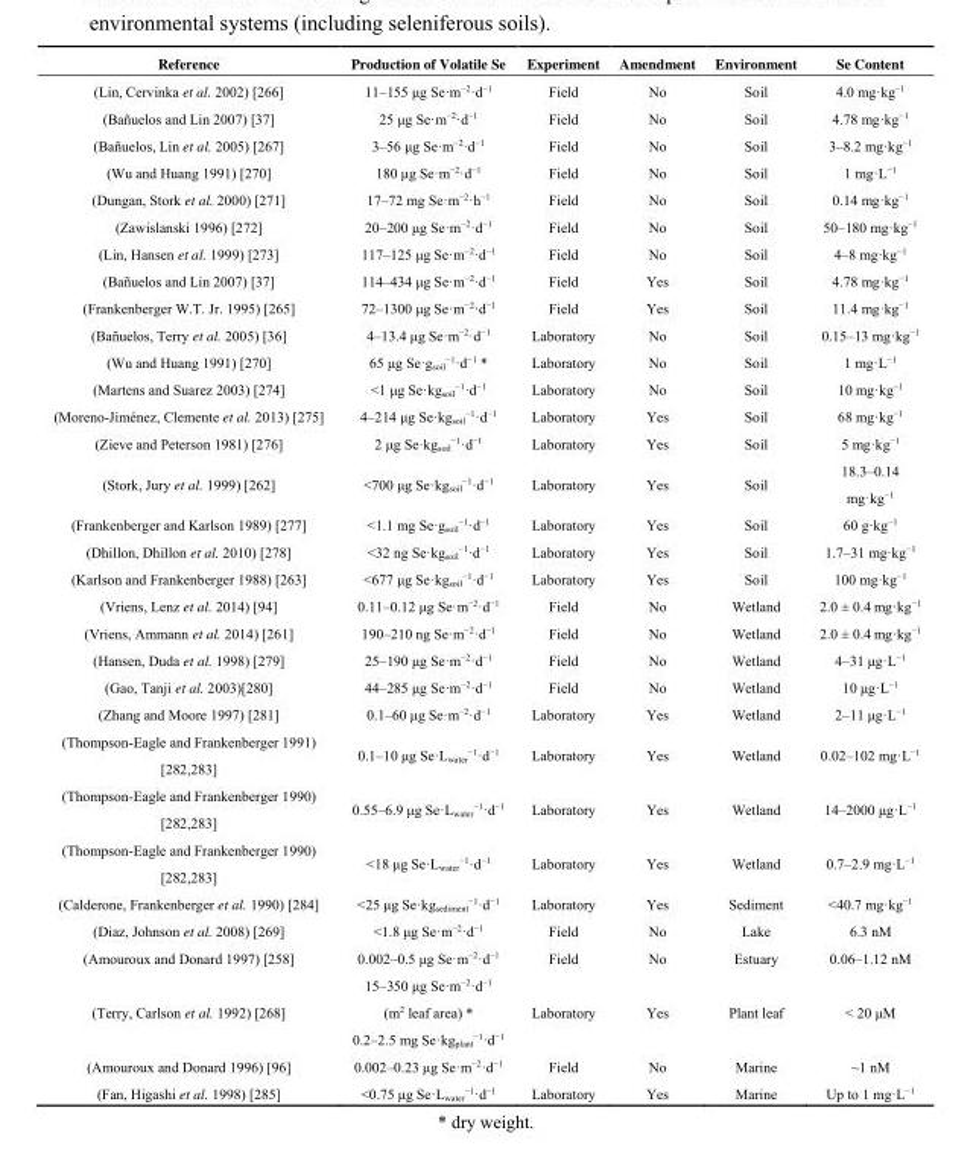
<table><thead><tr><td>Reference</td><td>Production of Volatile Se</td><td>Experiment</td><td>Amendment</td><td>Environment</td><td>Se Content</td></tr></thead><tbody><tr><td>(Lin, Cervinka et al. 2002) [266]</td><td>11–155 μg Se·m<sup>−2</sup>·d<sup>−1</sup></td><td>Field</td><td>No</td><td>Soil</td><td>4.0 mg·kg<sup>−1</sup></td></tr><tr><td>(Bañuelos and Lin 2007) [37]</td><td>25 μg Se·m<sup>−2</sup>·d<sup>−1</sup></td><td>Field</td><td>No</td><td>Soil</td><td>4.78 mg·kg<sup>−1</sup></td></tr><tr><td>(Bañuelos, Lin et al. 2005) [267]</td><td>3–56 μg Se·m<sup>−2</sup>·d<sup>−1</sup></td><td>Field</td><td>No</td><td>Soil</td><td>3–8.2 mg·kg<sup>−1</sup></td></tr><tr><td>(Wu and Huang 1991) [270]</td><td>180 μg Se·m<sup>−2</sup>·d<sup>−1</sup></td><td>Field</td><td>No</td><td>Soil</td><td>1 mg·L<sup>−1</sup></td></tr><tr><td>(Dungan, Stork et al. 2000) [271]</td><td>17–72 mg Se·m<sup>−2</sup>·h<sup>−1</sup></td><td>Field</td><td>No</td><td>Soil</td><td>0.14 mg·kg<sup>−1</sup></td></tr><tr><td>(Zawislanski 1996) [272]</td><td>20–200 μg Se·m<sup>−2</sup>·d<sup>−1</sup></td><td>Field</td><td>No</td><td>Soil</td><td>50–180 mg·kg<sup>−1</sup></td></tr><tr><td>(Lin, Hansen et al. 1999) [273]</td><td>117–125 μg Se·m<sup>−2</sup>·d<sup>−1</sup></td><td>Field</td><td>No</td><td>Soil</td><td>4–8 mg·kg<sup>−1</sup></td></tr><tr><td>(Bañuelos and Lin 2007) [37]</td><td>114–434 μg Se·m<sup>−2</sup>·d<sup>−1</sup></td><td>Field</td><td>Yes</td><td>Soil</td><td>4.78 mg·kg<sup>−1</sup></td></tr><tr><td>(Frankenberger W.T. Jr. 1995) [265]</td><td>72–1300 μg Se·m<sup>−2</sup>·d<sup>−1</sup></td><td>Field</td><td>Yes</td><td>Soil</td><td>11.4 mg·kg<sup>−1</sup></td></tr><tr><td>(Bañuelos, Terry et al. 2005) [36]</td><td>4–13.4 μg Se·m<sup>−2</sup>·d<sup>−1</sup></td><td>Laboratory</td><td>No</td><td>Soil</td><td>0.15–13 mg·kg<sup>−1</sup></td></tr><tr><td>(Wu and Huang 1991) [270]</td><td>65 μg Se·g<sub>soil</sub> <sup>−1</sup>·d<sup>−1</sup> *</td><td>Laboratory</td><td>No</td><td>Soil</td><td>1 mg·L<sup>−1</sup></td></tr><tr><td>(Martens and Suarez 2003) [274]</td><td>&lt;1 μg Se·kg<sub>soil</sub> <sup>−1</sup>·d<sup>−1</sup></td><td>Laboratory</td><td>No</td><td>Soil</td><td>10 mg·kg<sup>−1</sup></td></tr><tr><td>(Moreno-Jiménez, Clemente et al. 2013) [275]</td><td>4–214 μg Se·kg<sub>soil</sub> <sup>−1</sup>·d<sup>−1</sup></td><td>Laboratory</td><td>Yes</td><td>Soil</td><td>68 mg·kg<sup>−1</sup></td></tr><tr><td>(Zieve and Peterson 1981) [276]</td><td>2 μg Se·kg<sub>soil</sub> <sup>−1</sup>·d<sup>−1</sup></td><td>Laboratory</td><td>Yes</td><td>Soil</td><td>5 mg·kg<sup>−1</sup></td></tr><tr><td>(Stork, Jury et al. 1999) [262]</td><td>&lt;700 μg Se·kg<sub>soil</sub> <sup>−1</sup>·d<sup>−1</sup></td><td>Laboratory</td><td>Yes</td><td>Soil</td><td>18.3–0.14 mg·kg<sup>−1</sup></td></tr><tr><td>(Frankenberger and Karlson 1989) [277]</td><td>&lt;1.1 mg Se·g<sub>soil</sub> <sup>−1</sup>·d<sup>−1</sup></td><td>Laboratory</td><td>Yes</td><td>Soil</td><td>60 g·kg<sup>−1</sup></td></tr><tr><td>(Dhillon, Dhillon et al. 2010) [278]</td><td>&lt;32 ng Se·kg<sub>soil</sub> <sup>−1</sup>·d<sup>−1</sup></td><td>Laboratory</td><td>Yes</td><td>Soil</td><td>1.7–31 mg·kg<sup>−1</sup></td></tr><tr><td>(Karlson and Frankenberger 1988) [263]</td><td>&lt;677 μg Se·kg<sub>soil</sub> <sup>−1</sup>·d<sup>−1</sup></td><td>Laboratory</td><td>Yes</td><td>Soil</td><td>100 mg·kg<sup>−1</sup></td></tr><tr><td>(Vriens, Lenz et al. 2014) [94]</td><td>0.11–0.12 μg Se·m<sup>−2</sup>·d<sup>−1</sup></td><td>Field</td><td>No</td><td>Wetland</td><td>2.0 ± 0.4 mg·kg<sup>−1</sup></td></tr><tr><td>(Vriens, Ammann et al. 2014) [261]</td><td>190–210 ng Se·m<sup>−2</sup>·d<sup>−1</sup></td><td>Field</td><td>No</td><td>Wetland</td><td>2.0 ± 0.4 mg·kg<sup>−1</sup></td></tr><tr><td>(Hansen, Duda et al. 1998) [279]</td><td>25–190 μg Se·m<sup>−2</sup>·d<sup>−1</sup></td><td>Field</td><td>No</td><td>Wetland</td><td>4–31 μg·L<sup>−1</sup></td></tr><tr><td>(Gao, Tanji et al. 2003)[280]</td><td>44–285 μg Se·m<sup>−2</sup>·d<sup>−1</sup></td><td>Field</td><td>No</td><td>Wetland</td><td>10 μg·L<sup>−1</sup></td></tr><tr><td>(Zhang and Moore 1997) [281]</td><td>0.1–60 μg Se·m<sup>−2</sup>·d<sup>−1</sup></td><td>Laboratory</td><td>Yes</td><td>Wetland</td><td>2–11 μg·L<sup>−1</sup></td></tr><tr><td>(Thompson-Eagle and Frankenberger 1991) [282,283]</td><td>0.1–10 μg Se·L<sub>water</sub> <sup>−1</sup>·d<sup>−1</sup></td><td>Laboratory</td><td>Yes</td><td>Wetland</td><td>0.02–102 mg·L<sup>−1</sup></td></tr><tr><td>(Thompson-Eagle and Frankenberger 1990) [282,283]</td><td>0.55–6.9 μg Se·L<sub>water</sub> <sup>−1</sup>·d<sup>−1</sup></td><td>Laboratory</td><td>Yes</td><td>Wetland</td><td>14–2000 μg·L<sup>−1</sup></td></tr><tr><td>(Thompson-Eagle and Frankenberger 1990) [282,283]</td><td>&lt;18 μg Se·L<sub>water</sub> <sup>−1</sup>·d<sup>−1</sup></td><td>Laboratory</td><td>Yes</td><td>Wetland</td><td>0.7–2.9 mg·L<sup>−1</sup></td></tr><tr><td>(Calderone, Frankenberger et al. 1990) [284]</td><td>&lt;25 μg Se·kg<sub>sediment</sub> <sup>−1</sup>·d<sup>−1</sup></td><td>Laboratory</td><td>Yes</td><td>Sediment</td><td>&lt;40.7 mg·kg<sup>−1</sup></td></tr><tr><td>(Diaz, Johnson et al. 2008) [269]</td><td>&lt;1.8 μg Se·m<sup>−2</sup>·d<sup>−1</sup></td><td>Field</td><td>No</td><td>Lake</td><td>6.3 nM</td></tr><tr><td>(Amouroux and Donard 1997) [258]</td><td>0.002–0.5 μg Se·m<sup>−2</sup>·d<sup>−1</sup></td><td>Field</td><td>No</td><td>Estuary</td><td>0.06–1.12 nM</td></tr><tr><td>(Terry, Carlson et al. 1992) [268]</td><td>15–350 μg Se·m<sup>−2</sup>·d<sup>−1</sup> (m<sup>2</sup> leaf area) * 0.2–2.5 mg Se·kg<sub>plant</sub> <sup>−1</sup>·d<sup>−1</sup></td><td>Laboratory</td><td>Yes</td><td>Plant leaf</td><td>&lt; 20 μM</td></tr><tr><td>(Amouroux and Donard 1996) [96]</td><td>0.002–0.23 μg Se·m<sup>−2</sup>·d<sup>−1</sup></td><td>Field</td><td>No</td><td>Marine</td><td>~1 nM</td></tr><tr><td>(Fan, Higashi et al. 1998) [285]</td><td>&lt;0.75 μg Se·L<sub>water</sub> <sup>−1</sup>·d<sup>−1</sup></td><td>Laboratory</td><td>Yes</td><td>Marine</td><td>Up to 1 mg·L<sup>−1</sup></td></tr></tbody></table>